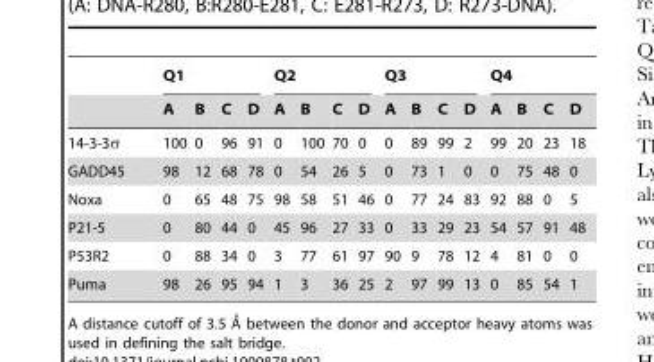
<table><thead><tr><td rowspan="2"></td><td colspan="4">Q1</td><td colspan="4">Q2</td><td colspan="4">Q3</td><td colspan="4">Q4</td></tr><tr><td>A</td><td>B</td><td>C</td><td>D</td><td>A</td><td>B</td><td>C</td><td>D</td><td>A</td><td>B</td><td>C</td><td>D</td><td>A</td><td>B</td><td>C</td><td>D</td></tr></thead><tbody><tr><td>14-3-3σ</td><td>100</td><td>0</td><td>96</td><td>91</td><td>0</td><td>100</td><td>70</td><td>0</td><td>0</td><td>89</td><td>99</td><td>2</td><td>99</td><td>20</td><td>23</td><td>18</td></tr><tr><td>GADD45</td><td>98</td><td>12</td><td>68</td><td>78</td><td>0</td><td>54</td><td>26</td><td>5</td><td>0</td><td>73</td><td>1</td><td>0</td><td>0</td><td>75</td><td>48</td><td>0</td></tr><tr><td>Noxa</td><td>0</td><td>65</td><td>48</td><td>75</td><td>98</td><td>58</td><td>51</td><td>46</td><td>0</td><td>77</td><td>24</td><td>83</td><td>92</td><td>88</td><td>0</td><td>5</td></tr><tr><td>P21-5</td><td>0</td><td>80</td><td>44</td><td>0</td><td>45</td><td>96</td><td>27</td><td>33</td><td>0</td><td>33</td><td>29</td><td>23</td><td>54</td><td>57</td><td>91</td><td>48</td></tr><tr><td>P53R2</td><td>0</td><td>88</td><td>34</td><td>0</td><td>3</td><td>77</td><td>61</td><td>97</td><td>90</td><td>9</td><td>78</td><td>12</td><td>4</td><td>81</td><td>0</td><td>0</td></tr><tr><td>Puma</td><td>98</td><td>26</td><td>95</td><td>94</td><td>1</td><td>3</td><td>36</td><td>25</td><td>2</td><td>97</td><td>99</td><td>13</td><td>0</td><td>85</td><td>54</td><td>1</td></tr></tbody></table>